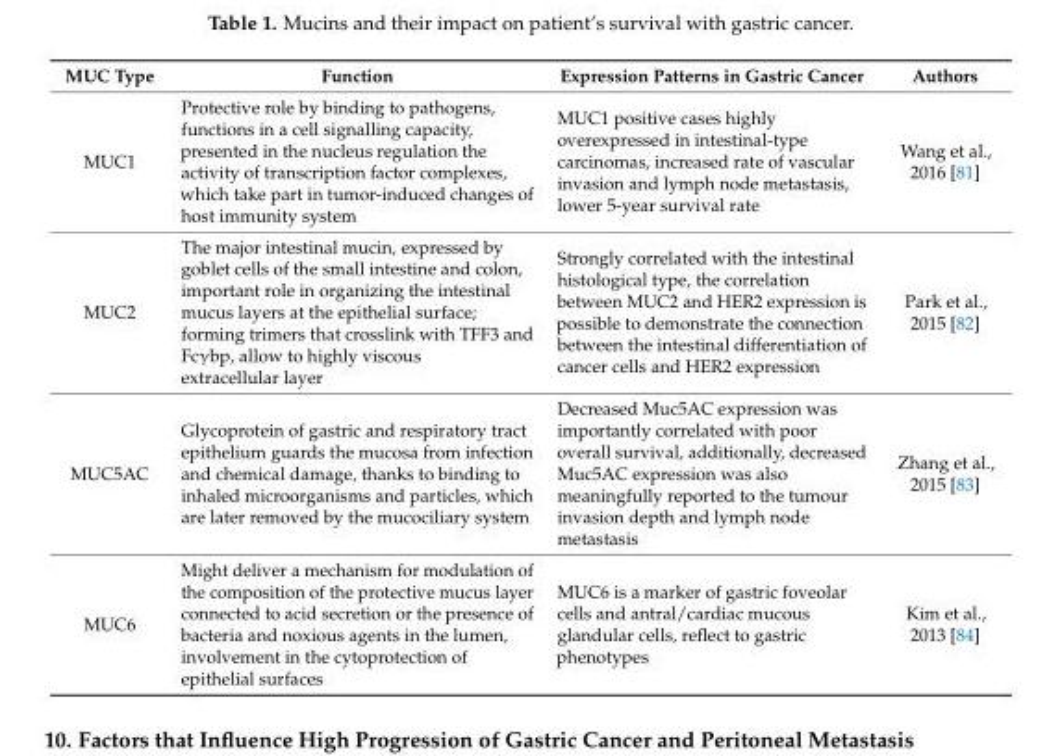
<table><thead><tr><td>MUC Type</td><td>Function</td><td>Expression Patterns in Gastric Cancer</td><td>Authors</td></tr></thead><tbody><tr><td>MUC1</td><td>Protective role by binding to pathogens, functions in a cell signalling capacity, presented in the nucleus regulation the activity of transcription factor complexes, which take part in tumor-induced changes of host immunity system</td><td>MUC1 positive cases highly overexpressed in intestinal-type carcinomas, increased rate of vascular invasion and lymph node metastasis, lower 5-year survival rate</td><td>Wang et al., 2016 [81]</td></tr><tr><td>MUC2</td><td>The major intestinal mucin, expressed by goblet cells of the small intestine and colon, important role in organizing the intestinal mucus layers at the epithelial surface; forming trimers that crosslink with TFF3 and Fcγbp, allow to highly viscous extracellular layer</td><td>Strongly correlated with the intestinal histological type, the correlation between MUC2 and HER2 expression is possible to demonstrate the connection between the intestinal differentiation of cancer cells and HER2 expression</td><td>Park et al., 2015 [82]</td></tr><tr><td>MUC5AC</td><td>Glycoprotein of gastric and respiratory tract epithelium guards the mucosa from infection and chemical damage, thanks to binding to inhaled microorganisms and particles, which are later removed by the mucociliary system</td><td>Decreased Muc5AC expression was importantly correlated with poor overall survival, additionally, decreased Muc5AC expression was also meaningfully reported to the tumour invasion depth and lymph node metastasis</td><td>Zhang et al., 2015 [83]</td></tr><tr><td>MUC6</td><td>Might deliver a mechanism for modulation of the composition of the protective mucus layer connected to acid secretion or the presence of bacteria and noxious agents in the lumen, involvement in the cytoprotection of epithelial surfaces</td><td>MUC6 is a marker of gastric foveolar cells and antral/cardiac mucous glandular cells, reflect to gastric phenotypes</td><td>Kim et al., 2013 [84]</td></tr></tbody></table>